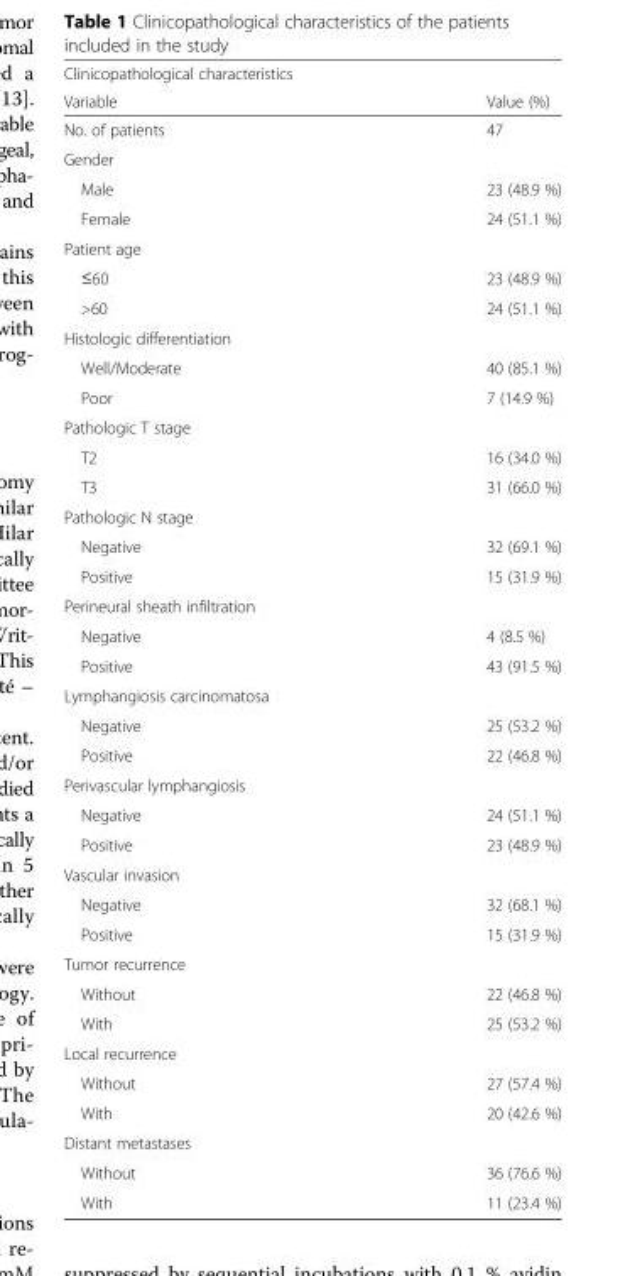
<table><thead><tr><td rowspan="2">Clinicopathological characteristics Variable</td><td rowspan="2">Value (%)</td></tr><tr></tr></thead><tbody><tr><td>No. of patients</td><td>47</td></tr><tr><td colspan="2">Gender</td></tr><tr><td>Male</td><td>23 (48.9 %)</td></tr><tr><td>Female</td><td>24 (51.1 %)</td></tr><tr><td colspan="2">Patient age</td></tr><tr><td>≤60</td><td>23 (48.9 %)</td></tr><tr><td>&gt;60</td><td>24 (51.1 %)</td></tr><tr><td colspan="2">Histologic differentiation</td></tr><tr><td>Well/Moderate</td><td>40 (85.1 %)</td></tr><tr><td>Poor</td><td>7 (14.9 %)</td></tr><tr><td colspan="2">Pathologic T stage</td></tr><tr><td>T2</td><td>16 (34.0 %)</td></tr><tr><td>T3</td><td>31 (66.0 %)</td></tr><tr><td colspan="2">Pathologic N stage</td></tr><tr><td>Negative</td><td>32 (69.1 %)</td></tr><tr><td>Positive</td><td>15 (31.9 %)</td></tr><tr><td colspan="2">Perineural sheath infiltration</td></tr><tr><td>Negative</td><td>4 (8.5 %)</td></tr><tr><td>Positive</td><td>43 (91.5 %)</td></tr><tr><td colspan="2">Lymphangiosis carcinomatosa</td></tr><tr><td>Negative</td><td>25 (53.2 %)</td></tr><tr><td>Positive</td><td>22 (46.8 %)</td></tr><tr><td colspan="2">Perivascular lymphangiosis</td></tr><tr><td>Negative</td><td>24 (51.1 %)</td></tr><tr><td>Positive</td><td>23 (48.9 %)</td></tr><tr><td colspan="2">Vascular invasion</td></tr><tr><td>Negative</td><td>32 (68.1 %)</td></tr><tr><td>Positive</td><td>15 (31.9 %)</td></tr><tr><td colspan="2">Tumor recurrence</td></tr><tr><td>Without</td><td>22 (46.8 %)</td></tr><tr><td>With</td><td>25 (53.2 %)</td></tr><tr><td colspan="2">Local recurrence</td></tr><tr><td>Without</td><td>27 (57.4 %)</td></tr><tr><td>With</td><td>20 (42.6 %)</td></tr><tr><td colspan="2">Distant metastases</td></tr><tr><td>Without</td><td>36 (76.6 %)</td></tr><tr><td>With</td><td>11 (23.4 %)</td></tr></tbody></table>